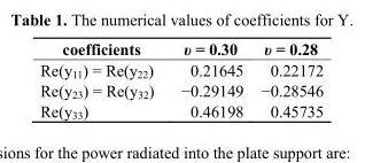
<table><thead><tr><td>coefficients</td><td>υ = 0.30</td><td>υ = 0.28</td></tr></thead><tbody><tr><td>Re(y<sub>11</sub>) = Re(y<sub>22</sub>)</td><td>0.21645</td><td>0.22172</td></tr><tr><td>Re(y<sub>23</sub>) = Re(y<sub>32</sub>)</td><td>−0.29149</td><td>−0.28546</td></tr><tr><td>Re(y<sub>33</sub>)</td><td>0.46198</td><td>0.45735</td></tr></tbody></table>